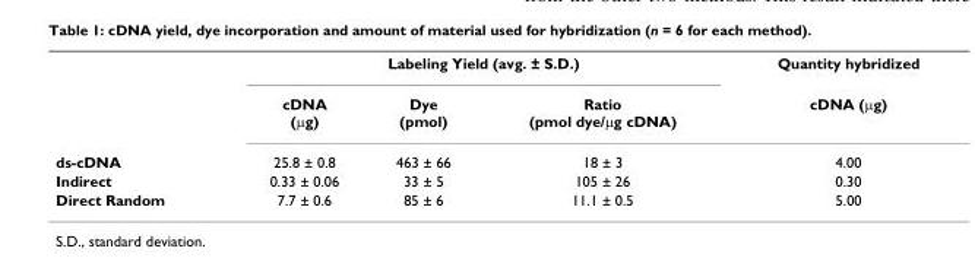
<table><thead><tr><td rowspan="2"></td><td colspan="3">Labeling Yield (avg. ± S.D.)</td><td rowspan="2">Quantity hybridized cDNA (μg)</td></tr><tr><td>cDNA (μg)</td><td>Dye (pmol)</td><td>Ratio (pmol dye/μg cDNA)</td></tr></thead><tbody><tr><td>ds-cDNA</td><td>25.8 ± 0.8</td><td>463 ± 66</td><td>18 ± 3</td><td>4.00</td></tr><tr><td>Indirect</td><td>0.33 ± 0.06</td><td>33 ± 5</td><td>105 ± 26</td><td>0.30</td></tr><tr><td>Direct Random</td><td>7.7 ± 0.6</td><td>85 ± 6</td><td>11.1 ± 0.5</td><td>5.00</td></tr></tbody></table>